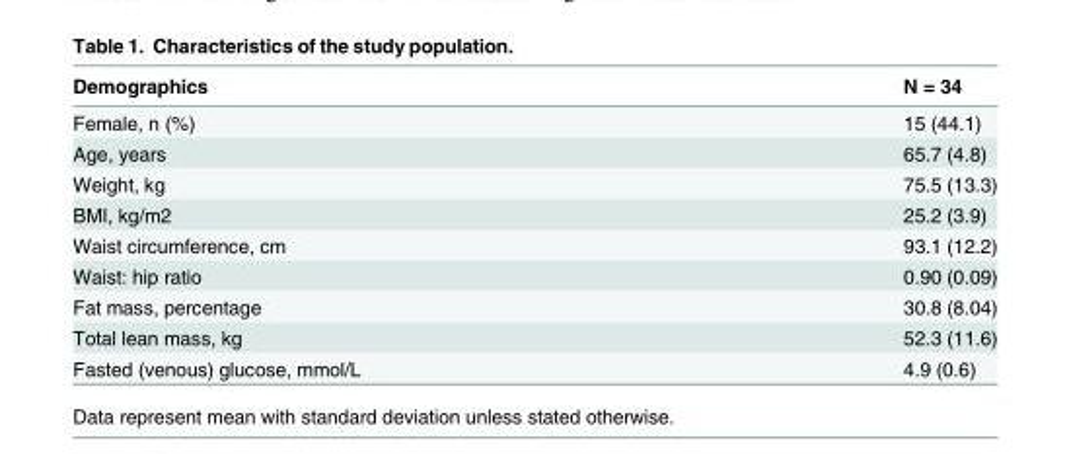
<table><thead><tr><td>Demographics</td><td>N = 34</td></tr></thead><tbody><tr><td>Female, n (%)</td><td>15 (44.1)</td></tr><tr><td>Age, years</td><td>65.7 (4.8)</td></tr><tr><td>Weight, kg</td><td>75.5 (13.3)</td></tr><tr><td>BMI, kg/m2</td><td>25.2 (3.9)</td></tr><tr><td>Waist circumference, cm</td><td>93.1 (12.2)</td></tr><tr><td>Waist: hip ratio</td><td>0.90 (0.09)</td></tr><tr><td>Fat mass, percentage</td><td>30.8 (8.04)</td></tr><tr><td>Total lean mass, kg</td><td>52.3 (11.6)</td></tr><tr><td>Fasted (venous) glucose, mmol/L</td><td>4.9 (0.6)</td></tr></tbody></table>